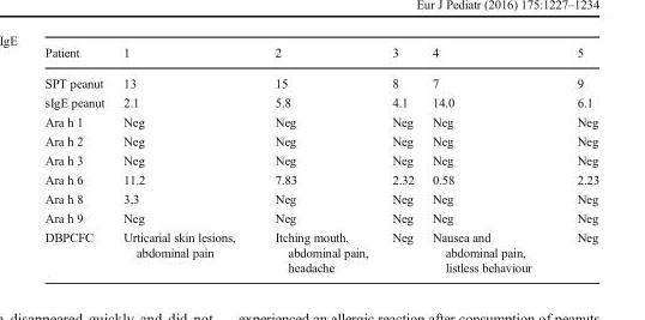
<table><thead><tr><td>Patient</td><td>1</td><td>2</td><td>3</td><td>4</td><td>5</td></tr></thead><tbody><tr><td>SPT peanut</td><td>13</td><td>15</td><td>8</td><td>7</td><td>9</td></tr><tr><td>sIgE peanut</td><td>2.1</td><td>5.8</td><td>4.1</td><td>14.0</td><td>6.1</td></tr><tr><td>Ara h 1</td><td>Neg</td><td>Neg</td><td>Neg</td><td>Neg</td><td>Neg</td></tr><tr><td>Ara h 2</td><td>Neg</td><td>Neg</td><td>Neg</td><td>Neg</td><td>Neg</td></tr><tr><td>Ara h 3</td><td>Neg</td><td>Neg</td><td>Neg</td><td>Neg</td><td>Neg</td></tr><tr><td>Ara h 6</td><td>11.2</td><td>7.83</td><td>2.32</td><td>0.58</td><td>2.23</td></tr><tr><td>Ara h 8</td><td>3,3</td><td>Neg</td><td>Neg</td><td>Neg</td><td>Neg</td></tr><tr><td>Ara h 9</td><td>Neg</td><td>Neg</td><td>Neg</td><td>Neg</td><td>Neg</td></tr><tr><td>DBPCFC</td><td>Urticarial skin lesions, abdominal pain</td><td>Itching mouth, abdominal pain, headache</td><td>Neg</td><td>Nausea and abdominal pain, listless behaviour</td><td>Neg</td></tr></tbody></table>